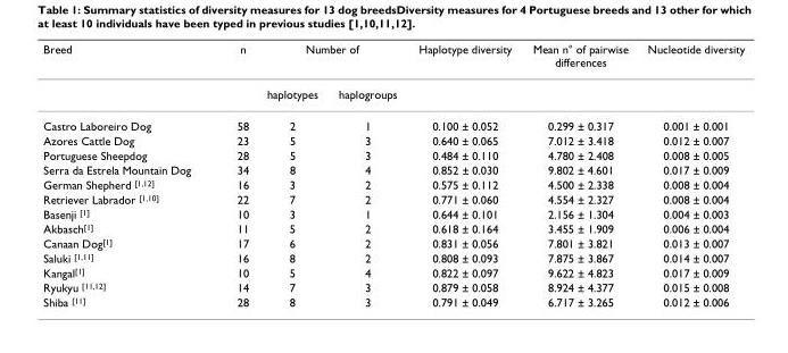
<table><thead><tr><td rowspan="2">Breed</td><td rowspan="2">n</td><td colspan="2">Number of</td><td rowspan="2">Haplotype diversity</td><td rowspan="2">Mean n° of pairwise differences</td><td rowspan="2">Nucleotide diversity</td></tr><tr><td>haplotypes</td><td>haplogroups</td></tr></thead><tbody><tr><td>Castro Laboreiro Dog</td><td>58</td><td>2</td><td>1</td><td>0.100 ± 0.052</td><td>0.299 ± 0.317</td><td>0.001 ± 0.001</td></tr><tr><td>Azores Cattle Dog</td><td>23</td><td>5</td><td>3</td><td>0.640 ± 0.065</td><td>7.012 ± 3.418</td><td>0.012 ± 0.007</td></tr><tr><td>Portuguese Sheepdog</td><td>28</td><td>5</td><td>3</td><td>0.484 ± 0.110</td><td>4.780 ± 2.408</td><td>0.008 ± 0.005</td></tr><tr><td>Serra da Estrela Mountain Dog</td><td>34</td><td>8</td><td>4</td><td>0.852 ± 0.030</td><td>9.802 ± 4.601</td><td>0.017 ± 0.009</td></tr><tr><td>German Shepherd <sup>[1,12]</sup></td><td>16</td><td>3</td><td>2</td><td>0.575 ± 0.112</td><td>4.500 ± 2.338</td><td>0.008 ± 0.004</td></tr><tr><td>Retriever Labrador <sup>[1,10]</sup></td><td>22</td><td>7</td><td>2</td><td>0.771 ± 0.060</td><td>4.554 ± 2.327</td><td>0.008 ± 0.004</td></tr><tr><td>Basenji <sup>[1]</sup></td><td>10</td><td>3</td><td>1</td><td>0.644 ± 0.101</td><td>2.156 ± 1.304</td><td>0.004 ± 0.003</td></tr><tr><td>Akbasch<sup>[1]</sup></td><td>11</td><td>5</td><td>2</td><td>0.618 ± 0.164</td><td>3.455 ± 1.909</td><td>0.006 ± 0.004</td></tr><tr><td>Canaan Dog<sup>[1]</sup></td><td>17</td><td>6</td><td>2</td><td>0.831 ± 0.056</td><td>7.801 ± 3.821</td><td>0.013 ± 0.007</td></tr><tr><td>Saluki <sup>[1,11]</sup></td><td>16</td><td>8</td><td>2</td><td>0.808 ± 0.093</td><td>7.875 ± 3.867</td><td>0.014 ± 0.007</td></tr><tr><td>Kangal<sup>[1]</sup></td><td>10</td><td>5</td><td>4</td><td>0.822 ± 0.097</td><td>9.622 ± 4.823</td><td>0.017 ± 0.009</td></tr><tr><td>Ryukyu <sup>[11,12]</sup></td><td>14</td><td>7</td><td>3</td><td>0.879 ± 0.058</td><td>8.924 ± 4.377</td><td>0.015 ± 0.008</td></tr><tr><td>Shiba <sup>[11]</sup></td><td>28</td><td>8</td><td>3</td><td>0.791 ± 0.049</td><td>6.717 ± 3.265</td><td>0.012 ± 0.006</td></tr></tbody></table>